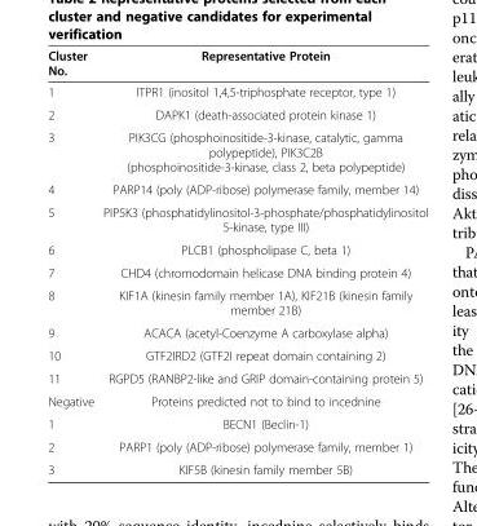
<table><thead><tr><td>Cluster No.</td><td>Representative Protein</td></tr></thead><tbody><tr><td>1</td><td>ITPR1 (inositol 1,4,5-triphosphate receptor, type 1)</td></tr><tr><td>2</td><td>DAPK1 (death-associated protein kinase 1)</td></tr><tr><td>3</td><td>PIK3CG (phosphoinositide-3-kinase, catalytic, gamma polypeptide), PIK3C2B (phosphoinositide-3-kinase, class 2, beta polypeptide)</td></tr><tr><td>4</td><td>PARP14 (poly (ADP-ribose) polymerase family, member 14)</td></tr><tr><td>5</td><td>PIP5K3 (phosphatidylinositol-3-phosphate/phosphatidylinositol 5-kinase, type III)</td></tr><tr><td>6</td><td>PLCB1 (phospholipase C, beta 1)</td></tr><tr><td>7</td><td>CHD4 (chromodomain helicase DNA binding protein 4)</td></tr><tr><td>8</td><td>KIF1A (kinesin family member 1A), KIF21B (kinesin family member 21B)</td></tr><tr><td>9</td><td>ACACA (acetyl-Coenzyme A carboxylase alpha)</td></tr><tr><td>10</td><td>GTF2IRD2 (GTF2I repeat domain containing 2)</td></tr><tr><td>11</td><td>RGPD5 (RANBP2-like and GRIP domain-containing protein 5)</td></tr><tr><td>Negative</td><td>Proteins predicted not to bind to incednine</td></tr><tr><td>1</td><td>BECN1 (Beclin-1)</td></tr><tr><td>2</td><td>PARP1 (poly (ADP-ribose) polymerase family, member 1)</td></tr><tr><td>3</td><td>KIF5B (kinesin family member 5B)</td></tr></tbody></table>